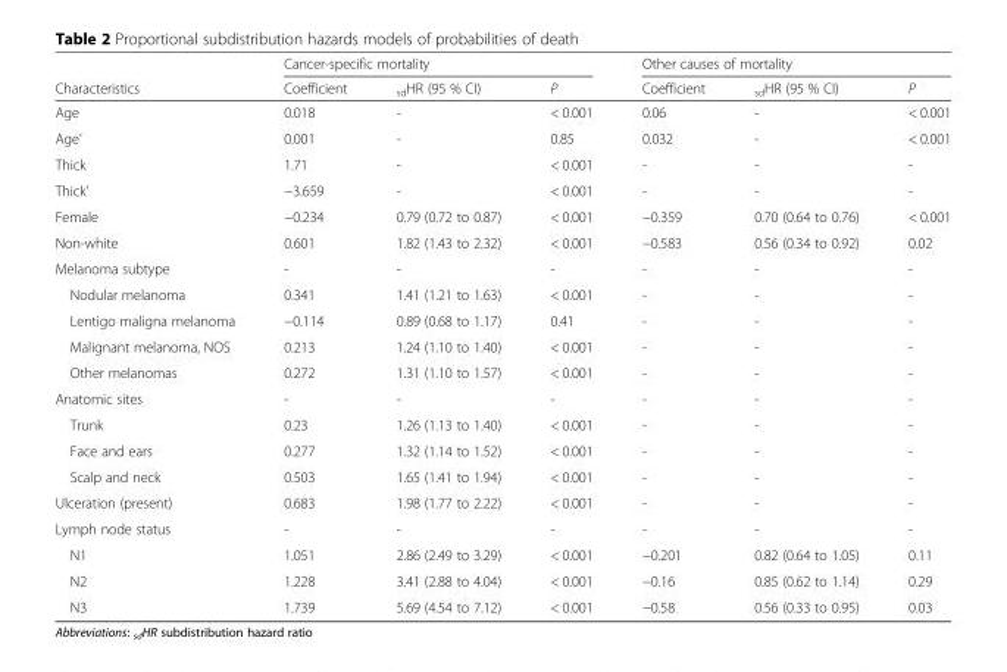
<table><thead><tr><td rowspan="2">Characteristics</td><td colspan="3">Cancer-specific mortality</td><td colspan="3">Other causes of mortality</td></tr><tr><td>Coefficient</td><td><sub>sd</sub>HR (95 % CI)</td><td>P</td><td>Coefficient</td><td><sub>sd</sub>HR (95 % CI)</td><td>P</td></tr></thead><tbody><tr><td>Age</td><td>0.018</td><td>-</td><td>&lt; 0.001</td><td>0.06</td><td>-</td><td>&lt; 0.001</td></tr><tr><td>Age’</td><td>0.001</td><td>-</td><td>0.85</td><td>0.032</td><td>-</td><td>&lt; 0.001</td></tr><tr><td>Thick</td><td>1.71</td><td>-</td><td>&lt; 0.001</td><td>-</td><td>-</td><td>-</td></tr><tr><td>Thick’</td><td>−3.659</td><td>-</td><td>&lt; 0.001</td><td>-</td><td>-</td><td>-</td></tr><tr><td>Female</td><td>−0.234</td><td>0.79 (0.72 to 0.87)</td><td>&lt; 0.001</td><td>−0.359</td><td>0.70 (0.64 to 0.76)</td><td>&lt; 0.001</td></tr><tr><td>Non-white</td><td>0.601</td><td>1.82 (1.43 to 2.32)</td><td>&lt; 0.001</td><td>−0.583</td><td>0.56 (0.34 to 0.92)</td><td>0.02</td></tr><tr><td>Melanoma subtype</td><td>-</td><td>-</td><td>-</td><td>-</td><td>-</td><td>-</td></tr><tr><td>Nodular melanoma</td><td>0.341</td><td>1.41 (1.21 to 1.63)</td><td>&lt; 0.001</td><td>-</td><td>-</td><td>-</td></tr><tr><td>Lentigo maligna melanoma</td><td>−0.114</td><td>0.89 (0.68 to 1.17)</td><td>0.41</td><td>-</td><td>-</td><td>-</td></tr><tr><td>Malignant melanoma, NOS</td><td>0.213</td><td>1.24 (1.10 to 1.40)</td><td>&lt; 0.001</td><td>-</td><td>-</td><td>-</td></tr><tr><td>Other melanomas</td><td>0.272</td><td>1.31 (1.10 to 1.57)</td><td>&lt; 0.001</td><td>-</td><td>-</td><td>-</td></tr><tr><td>Anatomic sites</td><td>-</td><td>-</td><td>-</td><td>-</td><td>-</td><td>-</td></tr><tr><td>Trunk</td><td>0.23</td><td>1.26 (1.13 to 1.40)</td><td>&lt; 0.001</td><td>-</td><td>-</td><td>-</td></tr><tr><td>Face and ears</td><td>0.277</td><td>1.32 (1.14 to 1.52)</td><td>&lt; 0.001</td><td>-</td><td>-</td><td>-</td></tr><tr><td>Scalp and neck</td><td>0.503</td><td>1.65 (1.41 to 1.94)</td><td>&lt; 0.001</td><td>-</td><td>-</td><td>-</td></tr><tr><td>Ulceration (present)</td><td>0.683</td><td>1.98 (1.77 to 2.22)</td><td>&lt; 0.001</td><td>-</td><td>-</td><td>-</td></tr><tr><td>Lymph node status</td><td>-</td><td>-</td><td>-</td><td>-</td><td>-</td><td>-</td></tr><tr><td>N1</td><td>1.051</td><td>2.86 (2.49 to 3.29)</td><td>&lt; 0.001</td><td>−0.201</td><td>0.82 (0.64 to 1.05)</td><td>0.11</td></tr><tr><td>N2</td><td>1.228</td><td>3.41 (2.88 to 4.04)</td><td>&lt; 0.001</td><td>−0.16</td><td>0.85 (0.62 to 1.14)</td><td>0.29</td></tr><tr><td>N3</td><td>1.739</td><td>5.69 (4.54 to 7.12)</td><td>&lt; 0.001</td><td>−0.58</td><td>0.56 (0.33 to 0.95)</td><td>0.03</td></tr></tbody></table>